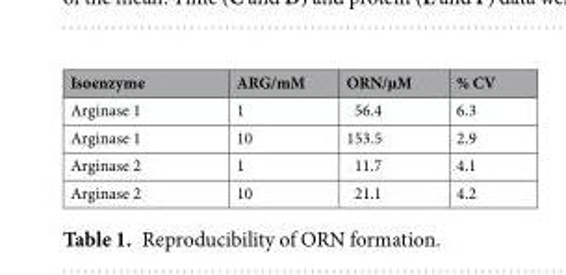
<table><thead><tr><td>Isoenzyme</td><td>ARG/mM</td><td>ORN/µM</td><td>% CV</td></tr></thead><tbody><tr><td>Arginase 1</td><td>1</td><td>56.4</td><td>6.3</td></tr><tr><td>Arginase 1</td><td>10</td><td>153.5</td><td>2.9</td></tr><tr><td>Arginase 2</td><td>1</td><td>11.7</td><td>4.1</td></tr><tr><td>Arginase 2</td><td>10</td><td>21.1</td><td>4.2</td></tr></tbody></table>